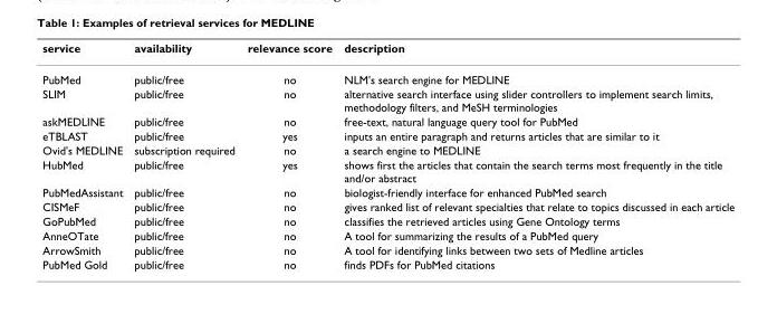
<table><thead><tr><td>service</td><td>availability</td><td>relevance score</td><td>description</td></tr></thead><tbody><tr><td>PubMed</td><td>public/free</td><td>no</td><td>NLM&#x27;s search engine for MEDLINE</td></tr><tr><td>SLIM</td><td>public/free</td><td>no</td><td>alternative search interface using slider controllers to implement search limits, methodology filters, and MeSH terminologies</td></tr><tr><td>askMEDLINE</td><td>public/free</td><td>no</td><td>free-text, natural language query tool for PubMed</td></tr><tr><td>eTBLAST</td><td>public/free</td><td>yes</td><td>inputs an entire paragraph and returns articles that are similar to it</td></tr><tr><td>Ovid&#x27;s MEDLINE</td><td>subscription required</td><td>no</td><td>a search engine to MEDLINE</td></tr><tr><td>HubMed</td><td>public/free</td><td>yes</td><td>shows first the articles that contain the search terms most frequently in the title and/or abstract</td></tr><tr><td>PubMedAssistant</td><td>public/free</td><td>no</td><td>biologist-friendly interface for enhanced PubMed search</td></tr><tr><td>CISMeF</td><td>public/free</td><td>no</td><td>gives ranked list of relevant specialties that relate to topics discussed in each article</td></tr><tr><td>GoPubMed</td><td>public/free</td><td>no</td><td>classifies the retrieved articles using Gene Ontology terms</td></tr><tr><td>AnneOTate</td><td>public/free</td><td>no</td><td>A tool for summarizing the results of a PubMed query</td></tr><tr><td>ArrowSmith</td><td>public/free</td><td>no</td><td>A tool for identifying links between two sets of Medline articles</td></tr><tr><td>PubMed Gold</td><td>public/free</td><td>no</td><td>finds PDFs for PubMed citations</td></tr></tbody></table>